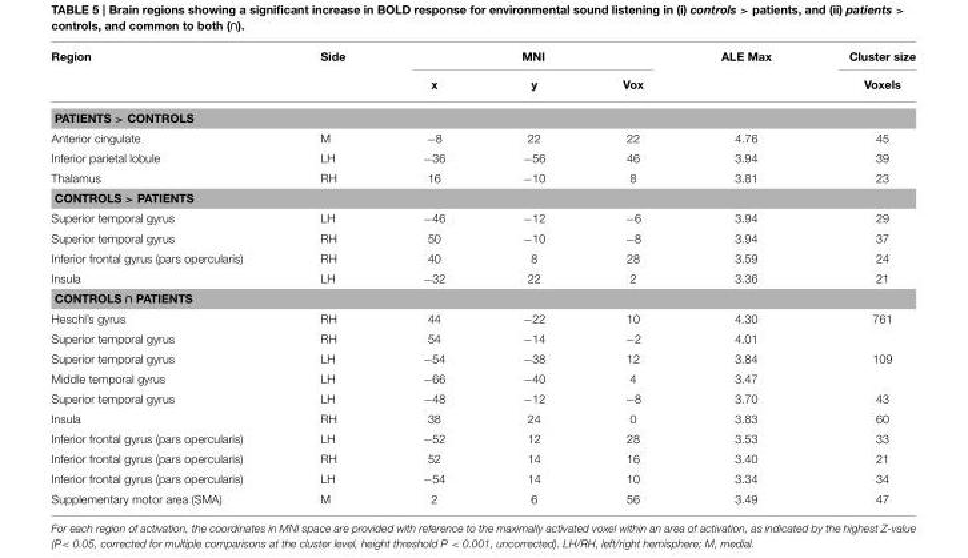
<table><thead><tr><td rowspan="2">Region</td><td rowspan="2">Side</td><td colspan="3">MNI</td><td rowspan="2">ALE Max</td><td rowspan="2">Cluster size Voxels</td></tr><tr><td>x</td><td>y</td><td>Vox</td></tr></thead><tbody><tr><td colspan="7">PATIENTS &gt; CONTROLS</td></tr><tr><td>Anterior cingulate</td><td>M</td><td>−8</td><td>22</td><td>22</td><td>4.76</td><td>45</td></tr><tr><td>Inferior parietal lobule</td><td>LH</td><td>−36</td><td>−56</td><td>46</td><td>3.94</td><td>39</td></tr><tr><td>Thalamus</td><td>RH</td><td>16</td><td>−10</td><td>8</td><td>3.81</td><td>23</td></tr><tr><td colspan="7">CONTROLS &gt; PATIENTS</td></tr><tr><td>Superior temporal gyrus</td><td>LH</td><td>−46</td><td>−12</td><td>−6</td><td>3.94</td><td>29</td></tr><tr><td>Superior temporal gyrus</td><td>RH</td><td>50</td><td>−10</td><td>−8</td><td>3.94</td><td>37</td></tr><tr><td>Inferior frontal gyrus (pars opercularis)</td><td>RH</td><td>40</td><td>8</td><td>28</td><td>3.59</td><td>24</td></tr><tr><td>Insula</td><td>LH</td><td>−32</td><td>22</td><td>2</td><td>3.36</td><td>21</td></tr><tr><td colspan="7">CONTROLS ∩ PATIENTS</td></tr><tr><td>Heschl’s gyrus</td><td>RH</td><td>44</td><td>−22</td><td>10</td><td>4.30</td><td>761</td></tr><tr><td>Superior temporal gyrus</td><td>RH</td><td>54</td><td>−14</td><td>−2</td><td>4.01</td><td></td></tr><tr><td>Superior temporal gyrus</td><td>LH</td><td>−54</td><td>−38</td><td>12</td><td>3.84</td><td>109</td></tr><tr><td>Middle temporal gyrus</td><td>LH</td><td>−66</td><td>−40</td><td>4</td><td>3.47</td><td></td></tr><tr><td>Superior temporal gyrus</td><td>LH</td><td>−48</td><td>−12</td><td>−8</td><td>3.70</td><td>43</td></tr><tr><td>Insula</td><td>RH</td><td>38</td><td>24</td><td>0</td><td>3.83</td><td>60</td></tr><tr><td>Inferior frontal gyrus (pars opercularis)</td><td>LH</td><td>−52</td><td>12</td><td>28</td><td>3.53</td><td>33</td></tr><tr><td>Inferior frontal gyrus (pars opercularis)</td><td>RH</td><td>52</td><td>14</td><td>16</td><td>3.40</td><td>21</td></tr><tr><td>Inferior frontal gyrus (pars opercularis)</td><td>LH</td><td>−54</td><td>14</td><td>10</td><td>3.34</td><td>34</td></tr><tr><td>Supplementary motor area (SMA)</td><td>M</td><td>2</td><td>6</td><td>56</td><td>3.49</td><td>47</td></tr></tbody></table>